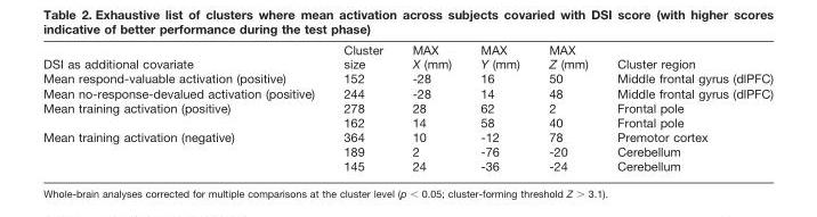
<table><thead><tr><td>DSI as additional covariate</td><td>Cluster size</td><td>MAX X (mm)</td><td>MAX Y (mm)</td><td>MAX Z (mm)</td><td>Cluster region</td></tr></thead><tbody><tr><td>Mean respond-valuable activation (positive)</td><td>152</td><td>-28</td><td>16</td><td>50</td><td>Middle frontal gyrus (dlPFC)</td></tr><tr><td>Mean no-response-devalued activation (positive)</td><td>244</td><td>-28</td><td>14</td><td>48</td><td>Middle frontal gyrus (dlPFC)</td></tr><tr><td rowspan="2">Mean training activation (positive)</td><td>278</td><td>28</td><td>62</td><td>2</td><td>Frontal pole</td></tr><tr><td>162</td><td>14</td><td>58</td><td>40</td><td>Frontal pole</td></tr><tr><td rowspan="3">Mean training activation (negative)</td><td>364</td><td>10</td><td>-12</td><td>78</td><td>Premotor cortex</td></tr><tr><td>189</td><td>2</td><td>-76</td><td>-20</td><td>Cerebellum</td></tr><tr><td>145</td><td>24</td><td>-36</td><td>-24</td><td>Cerebellum</td></tr></tbody></table>